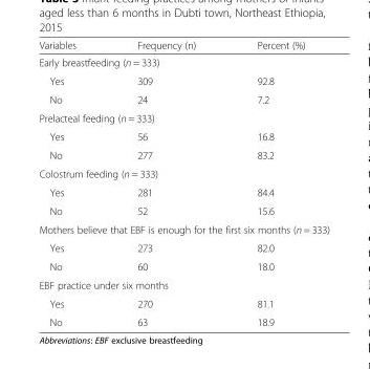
<table><thead><tr><td>Variables</td><td>Frequency (n)</td><td>Percent (%)</td></tr></thead><tbody><tr><td colspan="3">Early breastfeeding (n = 333)</td></tr><tr><td>Yes</td><td>309</td><td>92.8</td></tr><tr><td>No</td><td>24</td><td>7.2</td></tr><tr><td colspan="3">Prelacteal feeding (n = 333)</td></tr><tr><td>Yes</td><td>56</td><td>16.8</td></tr><tr><td>No</td><td>277</td><td>83.2</td></tr><tr><td colspan="3">Colostrum feeding (n = 333)</td></tr><tr><td>Yes</td><td>281</td><td>84.4</td></tr><tr><td>No</td><td>52</td><td>15.6</td></tr><tr><td colspan="3">Mothers believe that EBF is enough for the first six months (n = 333)</td></tr><tr><td>Yes</td><td>273</td><td>82.0</td></tr><tr><td>No</td><td>60</td><td>18.0</td></tr><tr><td colspan="3">EBF practice under six months</td></tr><tr><td>Yes</td><td>270</td><td>81.1</td></tr><tr><td>No</td><td>63</td><td>18.9</td></tr></tbody></table>